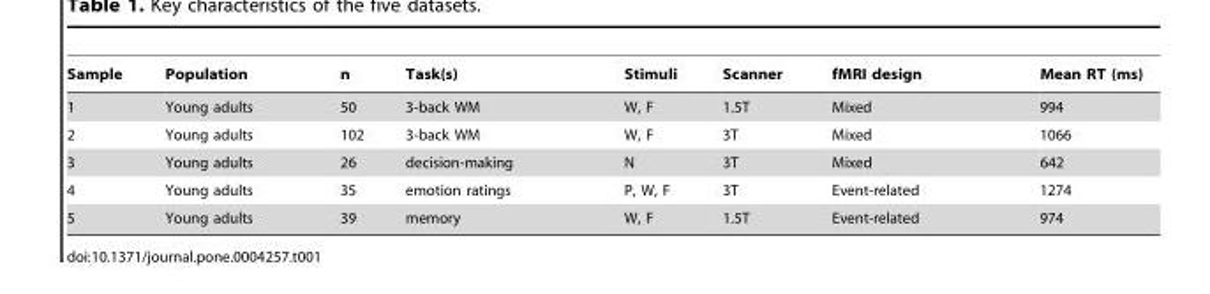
<table><thead><tr><td>Sample</td><td>Population</td><td>n</td><td>Task(s)</td><td>Stimuli</td><td>Scanner</td><td>fMRI design</td><td>Mean RT (ms)</td></tr></thead><tbody><tr><td>1</td><td>Young adults</td><td>50</td><td>3-back WM</td><td>W, F</td><td>1.5T</td><td>Mixed</td><td>994</td></tr><tr><td>2</td><td>Young adults</td><td>102</td><td>3-back WM</td><td>W, F</td><td>3T</td><td>Mixed</td><td>1066</td></tr><tr><td>3</td><td>Young adults</td><td>26</td><td>decision-making</td><td>N</td><td>3T</td><td>Mixed</td><td>642</td></tr><tr><td>4</td><td>Young adults</td><td>35</td><td>emotion ratings</td><td>P, W, F</td><td>3T</td><td>Event-related</td><td>1274</td></tr><tr><td>5</td><td>Young adults</td><td>39</td><td>memory</td><td>W, F</td><td>1.5T</td><td>Event-related</td><td>974</td></tr></tbody></table>